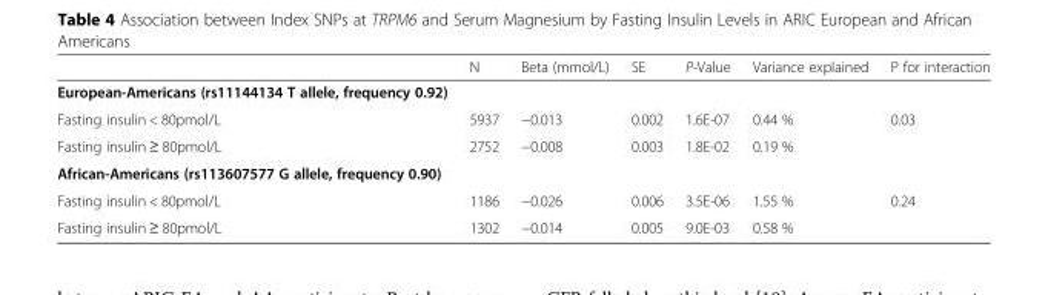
<table><thead><tr><td></td><td>N</td><td>Beta (mmol/L)</td><td>SE</td><td>P-Value</td><td>Variance explained</td><td>P for interaction</td></tr></thead><tbody><tr><td colspan="7">European-Americans (rs11144134 T allele, frequency 0.92)</td></tr><tr><td>Fasting insulin &lt; 80pmol/L</td><td>5937</td><td>−0.013</td><td>0.002</td><td>1.6E-07</td><td>0.44 %</td><td>0.03</td></tr><tr><td>Fasting insulin ≥ 80pmol/L</td><td>2752</td><td>−0.008</td><td>0.003</td><td>1.8E-02</td><td>0.19 %</td><td></td></tr><tr><td colspan="7">African-Americans (rs113607577 G allele, frequency 0.90)</td></tr><tr><td>Fasting insulin &lt; 80pmol/L</td><td>1186</td><td>−0.026</td><td>0.006</td><td>3.5E-06</td><td>1.55 %</td><td>0.24</td></tr><tr><td>Fasting insulin ≥ 80pmol/L</td><td>1302</td><td>−0.014</td><td>0.005</td><td>9.0E-03</td><td>0.58 %</td><td></td></tr></tbody></table>